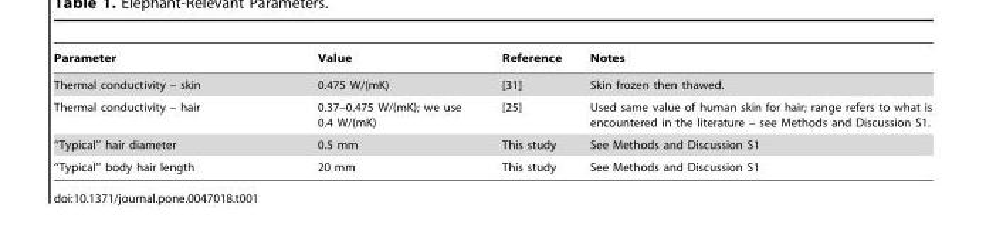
<table><thead><tr><td>Parameter</td><td>Value</td><td>Reference</td><td>Notes</td></tr></thead><tbody><tr><td>Thermal conductivity – skin</td><td>0.475 W/(mK)</td><td>[31]</td><td>Skin frozen then thawed.</td></tr><tr><td>Thermal conductivity – hair</td><td>0.37–0.475 W/(mK); we use 0.4 W/(mK)</td><td>[25]</td><td>Used same value of human skin for hair; range refers to what is encountered in the literature – see Methods and Discussion S1.</td></tr><tr><td>‘‘Typical’’ hair diameter</td><td>0.5 mm</td><td>This study</td><td>See Methods and Discussion S1</td></tr><tr><td>‘‘Typical’’ body hair length</td><td>20 mm</td><td>This study</td><td>See Methods and Discussion S1</td></tr></tbody></table>